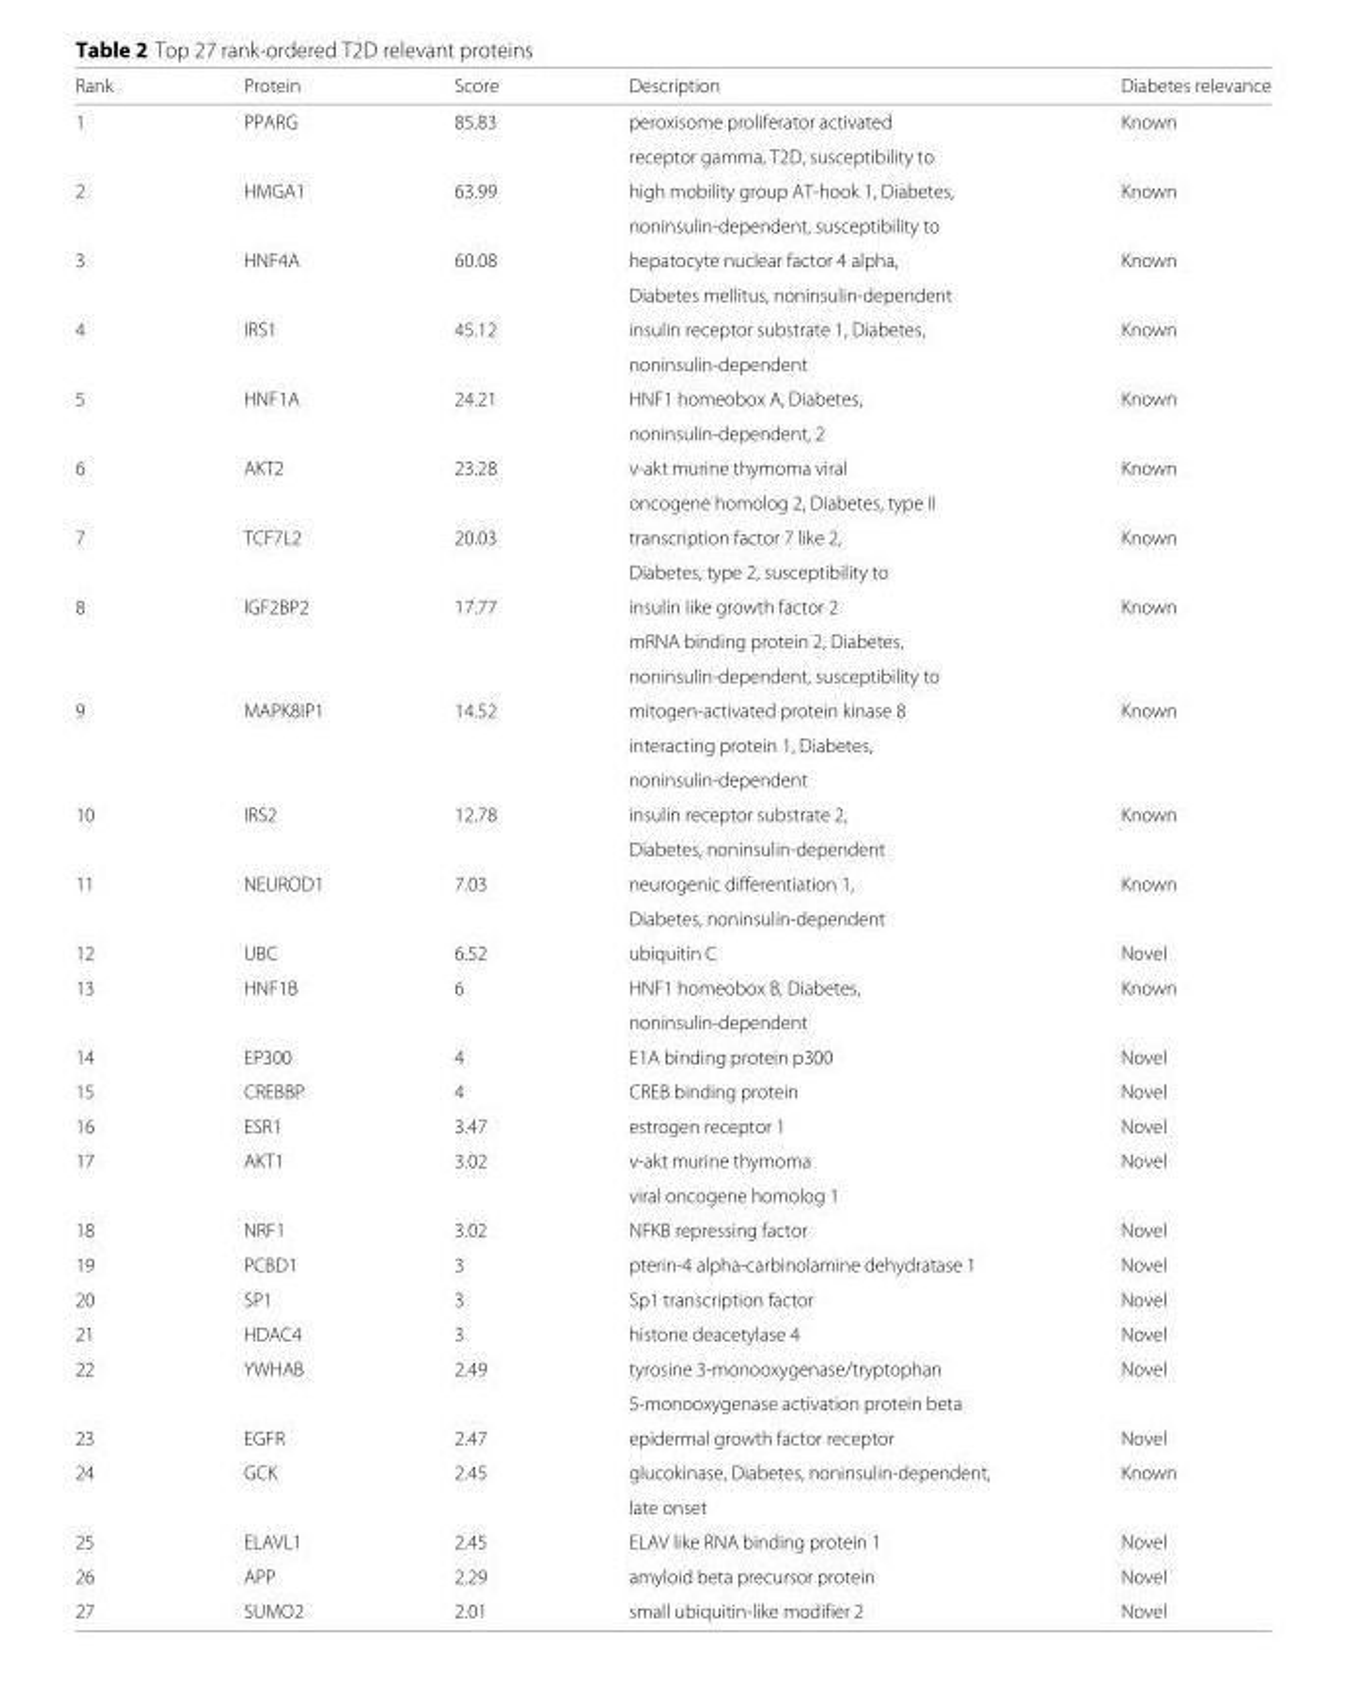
<table><thead><tr><td>Rank</td><td>Protein</td><td>Score</td><td>Description</td><td>Diabetes relevance</td></tr></thead><tbody><tr><td rowspan="2">1</td><td>PPARG</td><td>85.83</td><td>peroxisome proliferator activated</td><td>Known</td></tr><tr><td></td><td></td><td>receptor gamma, T2D, susceptibility to</td><td></td></tr><tr><td rowspan="2">2</td><td>HMGA1</td><td>63.99</td><td>high mobility group AT-hook 1, Diabetes,</td><td>Known</td></tr><tr><td></td><td></td><td>noninsulin-dependent, susceptibility to</td><td></td></tr><tr><td rowspan="2">3</td><td>HNF4A</td><td>60.08</td><td>hepatocyte nuclear factor 4 alpha,</td><td>Known</td></tr><tr><td></td><td></td><td>Diabetes mellitus, noninsulin-dependent</td><td></td></tr><tr><td rowspan="2">4</td><td>IRS1</td><td>45.12</td><td>insulin receptor substrate 1, Diabetes,</td><td>Known</td></tr><tr><td></td><td></td><td>noninsulin-dependent</td><td></td></tr><tr><td rowspan="2">5</td><td>HNF1A</td><td>24.21</td><td>HNF1 homeobox A, Diabetes,</td><td>Known</td></tr><tr><td></td><td></td><td>noninsulin-dependent, 2</td><td></td></tr><tr><td rowspan="2">6</td><td>AKT2</td><td>23.28</td><td>v-akt murine thymoma viral</td><td>Known</td></tr><tr><td></td><td></td><td>oncogene homolog 2, Diabetes, type II</td><td></td></tr><tr><td rowspan="2">7</td><td>TCF7L2</td><td>20.03</td><td>transcription factor 7 like 2,</td><td>Known</td></tr><tr><td></td><td></td><td>Diabetes, type 2, susceptibility to</td><td></td></tr><tr><td rowspan="3">8</td><td>IGF2BP2</td><td>17.77</td><td>insulin like growth factor 2</td><td>Known</td></tr><tr><td></td><td></td><td>mRNA binding protein 2, Diabetes,</td><td></td></tr><tr><td></td><td></td><td>noninsulin-dependent, susceptibility to</td><td></td></tr><tr><td rowspan="3">9</td><td>MAPK8IP1</td><td>14.52</td><td>mitogen-activated protein kinase 8</td><td>Known</td></tr><tr><td></td><td></td><td>interacting protein 1, Diabetes,</td><td></td></tr><tr><td></td><td></td><td>noninsulin-dependent</td><td></td></tr><tr><td rowspan="2">10</td><td>IRS2</td><td>12.78</td><td>insulin receptor substrate 2,</td><td>Known</td></tr><tr><td></td><td></td><td>Diabetes, noninsulin-dependent</td><td></td></tr><tr><td rowspan="2">11</td><td>NEUROD1</td><td>7.03</td><td>neurogenic differentiation 1,</td><td>Known</td></tr><tr><td></td><td></td><td>Diabetes, noninsulin-dependent</td><td></td></tr><tr><td>12</td><td>UBC</td><td>6.52</td><td>ubiquitin C</td><td>Novel</td></tr><tr><td rowspan="2">13</td><td>HNF1B</td><td>6</td><td>HNF1 homeobox B, Diabetes,</td><td>Known</td></tr><tr><td></td><td></td><td>noninsulin-dependent</td><td></td></tr><tr><td>14</td><td>EP300</td><td>4</td><td>E1A binding protein p300</td><td>Novel</td></tr><tr><td>15</td><td>CREBBP</td><td>4</td><td>CREB binding protein</td><td>Novel</td></tr><tr><td>16</td><td>ESR1</td><td>3.47</td><td>estrogen receptor 1</td><td>Novel</td></tr><tr><td rowspan="2">17</td><td>AKT1</td><td>3.02</td><td>v-akt murine thymoma</td><td>Novel</td></tr><tr><td></td><td></td><td>viral oncogene homolog 1</td><td></td></tr><tr><td>18</td><td>NRF1</td><td>3.02</td><td>NFKB repressing factor</td><td>Novel</td></tr><tr><td>19</td><td>PCBD1</td><td>3</td><td>pterin-4 alpha-carbinolamine dehydratase 1</td><td>Novel</td></tr><tr><td>20</td><td>SP1</td><td>3</td><td>Sp1 transcription factor</td><td>Novel</td></tr><tr><td>21</td><td>HDAC4</td><td>3</td><td>histone deacetylase 4</td><td>Novel</td></tr><tr><td rowspan="2">22</td><td>YWHAB</td><td>2.49</td><td>tyrosine 3-monooxygenase/tryptophan</td><td>Novel</td></tr><tr><td></td><td></td><td>5-monooxygenase activation protein beta</td><td></td></tr><tr><td>23</td><td>EGFR</td><td>2.47</td><td>epidermal growth factor receptor</td><td>Novel</td></tr><tr><td rowspan="2">24</td><td>GCK</td><td>2.45</td><td>glucokinase, Diabetes, noninsulin-dependent,</td><td>Known</td></tr><tr><td></td><td></td><td>late onset</td><td></td></tr><tr><td>25</td><td>ELAVL1</td><td>2.45</td><td>ELAV like RNA binding protein 1</td><td>Novel</td></tr><tr><td>26</td><td>APP</td><td>2.29</td><td>amyloid beta precursor protein</td><td>Novel</td></tr><tr><td>27</td><td>SUMO2</td><td>2.01</td><td>small ubiquitin-like modifier 2</td><td>Novel</td></tr></tbody></table>